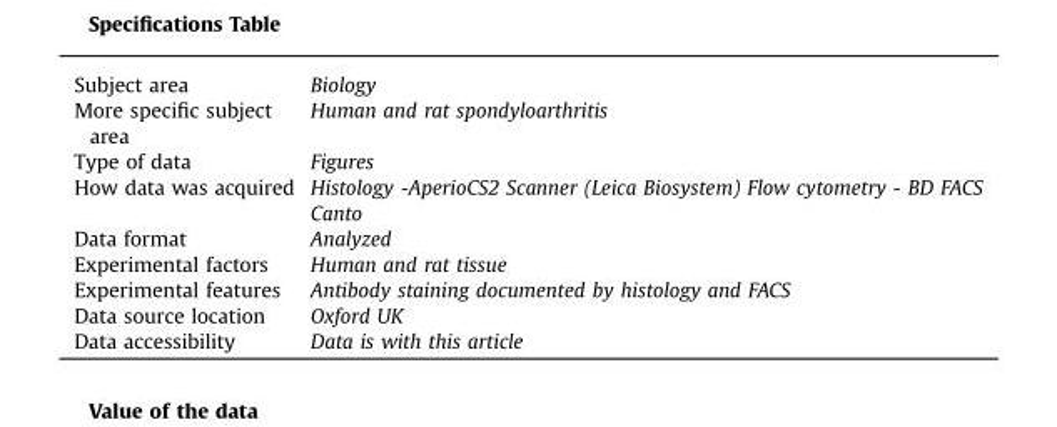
<table><tbody><tr><td>Subject area</td><td>Biology</td></tr><tr><td>More specific subject area</td><td>Human and rat spondyloarthritis</td></tr><tr><td>Type of data</td><td>Figures</td></tr><tr><td>How data was acquired</td><td>Histology -AperioCS2 Scanner (Leica Biosystem) Flow cytometry - BD FACS Canto</td></tr><tr><td>Data format</td><td>Analyzed</td></tr><tr><td>Experimental factors</td><td>Human and rat tissue</td></tr><tr><td>Experimental features</td><td>Antibody staining documented by histology and FACS</td></tr><tr><td>Data source location</td><td>Oxford UK</td></tr><tr><td>Data accessibility</td><td>Data is with this article</td></tr></tbody></table>